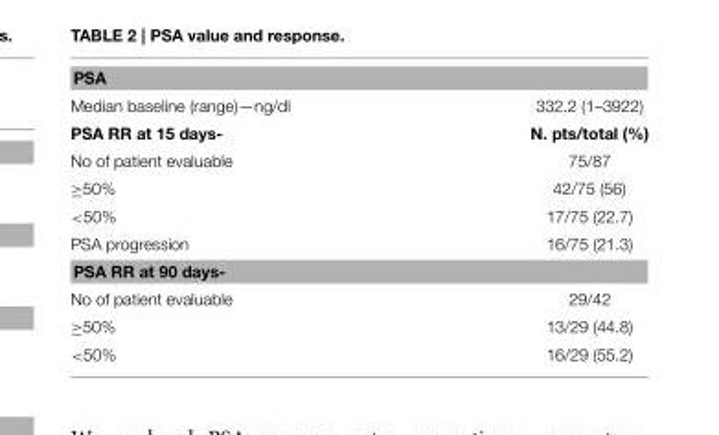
<table><tbody><tr><td colspan="2">PSA</td></tr><tr><td>Median baseline (range)—ng/dl</td><td>332.2 (1–3922)</td></tr><tr><td>PSA RR at 15 days-</td><td>N. pts/total (%)</td></tr><tr><td>No of patient evaluable</td><td>75/87</td></tr><tr><td>≥50%</td><td>42/75 (56)</td></tr><tr><td>&lt;50%</td><td>17/75 (22.7)</td></tr><tr><td>PSA progression</td><td>16/75 (21.3)</td></tr><tr><td colspan="2">PSA RR at 90 days-</td></tr><tr><td>No of patient evaluable</td><td>29/42</td></tr><tr><td>≥50%</td><td>13/29 (44.8)</td></tr><tr><td>&lt;50%</td><td>16/29 (55.2)</td></tr></tbody></table>